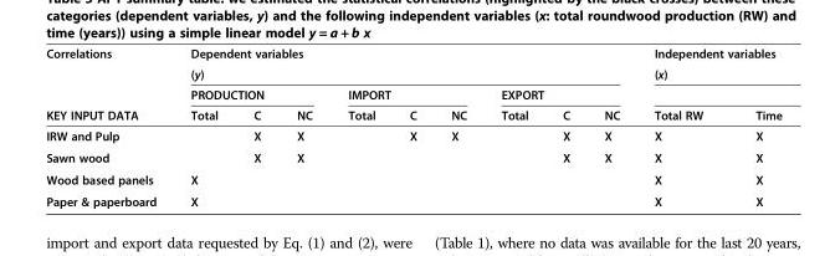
<table><thead><tr><td rowspan="4">Correlations KEY INPUT DATA</td><td rowspan="2" colspan="9">Dependent variables (y)</td><td rowspan="2" colspan="2">Independent variables (x)</td></tr><tr></tr><tr><td colspan="3">PRODUCTION</td><td colspan="3">IMPORT</td><td colspan="3">EXPORT</td><td rowspan="2">Total RW</td><td rowspan="2">Time</td></tr><tr><td>Total</td><td>C</td><td>NC</td><td>Total</td><td>C</td><td>NC</td><td>Total</td><td>C</td><td>NC</td></tr></thead><tbody><tr><td>IRW and Pulp</td><td></td><td>X</td><td>X</td><td></td><td>X</td><td>X</td><td></td><td>X</td><td>X</td><td>X</td><td>X</td></tr><tr><td>Sawn wood</td><td></td><td>X</td><td>X</td><td></td><td></td><td></td><td></td><td>X</td><td>X</td><td>X</td><td>X</td></tr><tr><td>Wood based panels</td><td>X</td><td></td><td></td><td></td><td></td><td></td><td></td><td></td><td></td><td>X</td><td>X</td></tr><tr><td>Paper &amp; paperboard</td><td>X</td><td></td><td></td><td></td><td></td><td></td><td></td><td></td><td></td><td>X</td><td>X</td></tr></tbody></table>